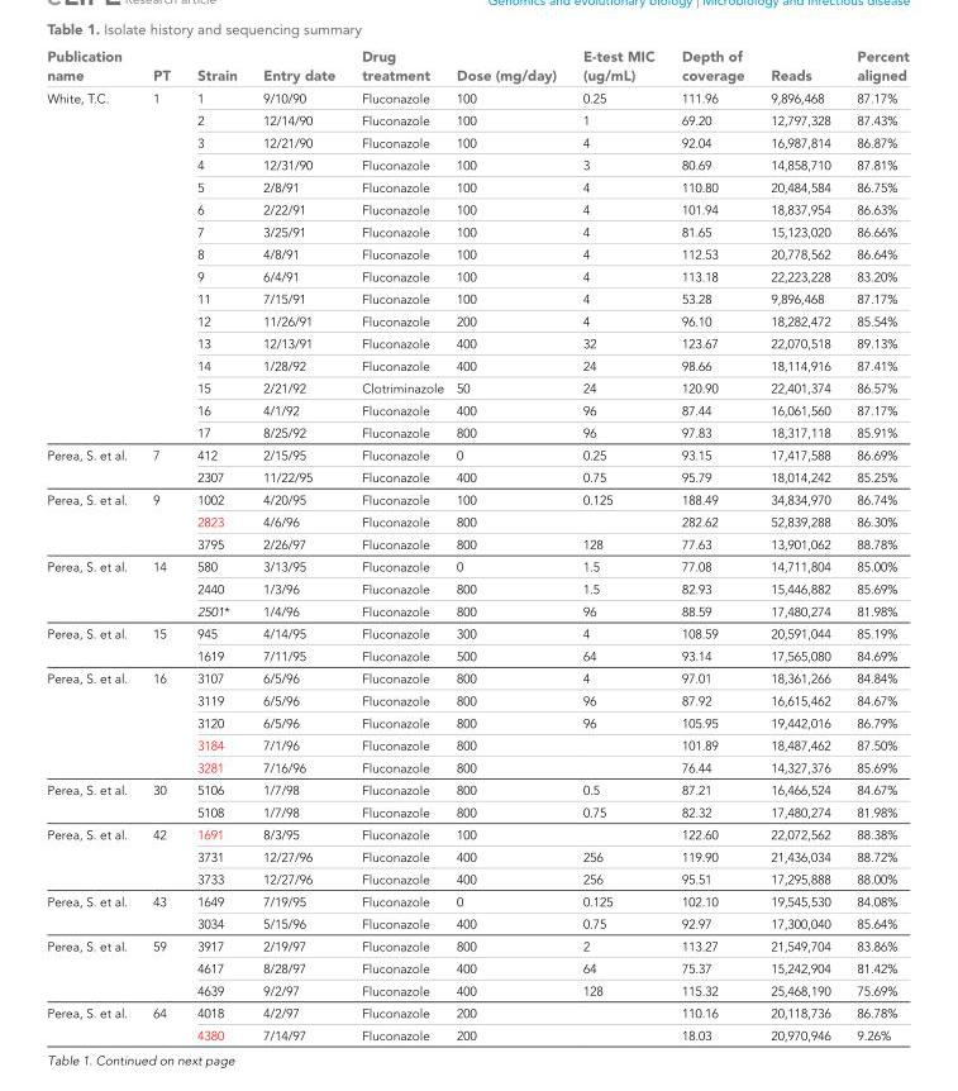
<table><thead><tr><td>Publication name</td><td>PT</td><td>Strain</td><td>Entry date</td><td>Drug treatment</td><td>Dose (mg/day)</td><td>E-test MIC (ug/mL)</td><td>Depth of coverage</td><td>Reads</td><td>Percent aligned</td></tr></thead><tbody><tr><td rowspan="16">White, T.C.</td><td>1</td><td>1</td><td>9/10/90</td><td>Fluconazole</td><td>100</td><td>0.25</td><td>111.96</td><td>9,896,468</td><td>87.17%</td></tr><tr><td></td><td>2</td><td>12/14/90</td><td>Fluconazole</td><td>100</td><td>1</td><td>69.20</td><td>12,797,328</td><td>87.43%</td></tr><tr><td></td><td>3</td><td>12/21/90</td><td>Fluconazole</td><td>100</td><td>4</td><td>92.04</td><td>16,987,814</td><td>86.87%</td></tr><tr><td></td><td>4</td><td>12/31/90</td><td>Fluconazole</td><td>100</td><td>3</td><td>80.69</td><td>14,858,710</td><td>87.81%</td></tr><tr><td></td><td>5</td><td>2/8/91</td><td>Fluconazole</td><td>100</td><td>4</td><td>110.80</td><td>20,484,584</td><td>86.75%</td></tr><tr><td></td><td>6</td><td>2/22/91</td><td>Fluconazole</td><td>100</td><td>4</td><td>101.94</td><td>18,837,954</td><td>86.63%</td></tr><tr><td></td><td>7</td><td>3/25/91</td><td>Fluconazole</td><td>100</td><td>4</td><td>81.65</td><td>15,123,020</td><td>86.66%</td></tr><tr><td></td><td>8</td><td>4/8/91</td><td>Fluconazole</td><td>100</td><td>4</td><td>112.53</td><td>20,778,562</td><td>86.64%</td></tr><tr><td></td><td>9</td><td>6/4/91</td><td>Fluconazole</td><td>100</td><td>4</td><td>113.18</td><td>22,223,228</td><td>83.20%</td></tr><tr><td></td><td>11</td><td>7/15/91</td><td>Fluconazole</td><td>100</td><td>4</td><td>53.28</td><td>9,896,468</td><td>87.17%</td></tr><tr><td></td><td>12</td><td>11/26/91</td><td>Fluconazole</td><td>200</td><td>4</td><td>96.10</td><td>18,282,472</td><td>85.54%</td></tr><tr><td></td><td>13</td><td>12/13/91</td><td>Fluconazole</td><td>400</td><td>32</td><td>123.67</td><td>22,070,518</td><td>89.13%</td></tr><tr><td></td><td>14</td><td>1/28/92</td><td>Fluconazole</td><td>400</td><td>24</td><td>98.66</td><td>18,114,916</td><td>87.41%</td></tr><tr><td></td><td>15</td><td>2/21/92</td><td>Clotriminazole</td><td>50</td><td>24</td><td>120.90</td><td>22,401,374</td><td>86.57%</td></tr><tr><td></td><td>16</td><td>4/1/92</td><td>Fluconazole</td><td>400</td><td>96</td><td>87.44</td><td>16,061,560</td><td>87.17%</td></tr><tr><td></td><td>17</td><td>8/25/92</td><td>Fluconazole</td><td>800</td><td>96</td><td>97.83</td><td>18,317,118</td><td>85.91%</td></tr><tr><td rowspan="2">Perea, S. et al.</td><td>7</td><td>412</td><td>2/15/95</td><td>Fluconazole</td><td>0</td><td>0.25</td><td>93.15</td><td>17,417,588</td><td>86.69%</td></tr><tr><td></td><td>2307</td><td>11/22/95</td><td>Fluconazole</td><td>400</td><td>0.75</td><td>95.79</td><td>18,014,242</td><td>85.25%</td></tr><tr><td rowspan="3">Perea, S. et al.</td><td>9</td><td>1002</td><td>4/20/95</td><td>Fluconazole</td><td>100</td><td>0.125</td><td>188.49</td><td>34,834,970</td><td>86.74%</td></tr><tr><td></td><td>2823</td><td>4/6/96</td><td>Fluconazole</td><td>800</td><td></td><td>282.62</td><td>52,839,288</td><td>86.30%</td></tr><tr><td></td><td>3795</td><td>2/26/97</td><td>Fluconazole</td><td>800</td><td>128</td><td>77.63</td><td>13,901,062</td><td>88.78%</td></tr><tr><td rowspan="3">Perea, S. et al.</td><td>14</td><td>580</td><td>3/13/95</td><td>Fluconazole</td><td>0</td><td>1.5</td><td>77.08</td><td>14,711,804</td><td>85.00%</td></tr><tr><td></td><td>2440</td><td>1/3/96</td><td>Fluconazole</td><td>800</td><td>1.5</td><td>82.93</td><td>15,446,882</td><td>85.69%</td></tr><tr><td></td><td>2501*</td><td>1/4/96</td><td>Fluconazole</td><td>800</td><td>96</td><td>88.59</td><td>17,480,274</td><td>81.98%</td></tr><tr><td rowspan="2">Perea, S. et al.</td><td>15</td><td>945</td><td>4/14/95</td><td>Fluconazole</td><td>300</td><td>4</td><td>108.59</td><td>20,591,044</td><td>85.19%</td></tr><tr><td></td><td>1619</td><td>7/11/95</td><td>Fluconazole</td><td>500</td><td>64</td><td>93.14</td><td>17,565,080</td><td>84.69%</td></tr><tr><td rowspan="5">Perea, S. et al.</td><td>16</td><td>3107</td><td>6/5/96</td><td>Fluconazole</td><td>800</td><td>4</td><td>97.01</td><td>18,361,266</td><td>84.84%</td></tr><tr><td></td><td>3119</td><td>6/5/96</td><td>Fluconazole</td><td>800</td><td>96</td><td>87.92</td><td>16,615,462</td><td>84.67%</td></tr><tr><td></td><td>3120</td><td>6/5/96</td><td>Fluconazole</td><td>800</td><td>96</td><td>105.95</td><td>19,442,016</td><td>86.79%</td></tr><tr><td></td><td>3184</td><td>7/1/96</td><td>Fluconazole</td><td>800</td><td></td><td>101.89</td><td>18,487,462</td><td>87.50%</td></tr><tr><td></td><td>3281</td><td>7/16/96</td><td>Fluconazole</td><td>800</td><td></td><td>76.44</td><td>14,327,376</td><td>85.69%</td></tr><tr><td rowspan="2">Perea, S. et al.</td><td>30</td><td>5106</td><td>1/7/98</td><td>Fluconazole</td><td>800</td><td>0.5</td><td>87.21</td><td>16,466,524</td><td>84.67%</td></tr><tr><td></td><td>5108</td><td>1/7/98</td><td>Fluconazole</td><td>800</td><td>0.75</td><td>82.32</td><td>17,480,274</td><td>81.98%</td></tr><tr><td rowspan="3">Perea, S. et al.</td><td>42</td><td>1691</td><td>8/3/95</td><td>Fluconazole</td><td>100</td><td></td><td>122.60</td><td>22,072,562</td><td>88.38%</td></tr><tr><td></td><td>3731</td><td>12/27/96</td><td>Fluconazole</td><td>400</td><td>256</td><td>119.90</td><td>21,436,034</td><td>88.72%</td></tr><tr><td></td><td>3733</td><td>12/27/96</td><td>Fluconazole</td><td>400</td><td>256</td><td>95.51</td><td>17,295,888</td><td>88.00%</td></tr><tr><td rowspan="2">Perea, S. et al.</td><td>43</td><td>1649</td><td>7/19/95</td><td>Fluconazole</td><td>0</td><td>0.125</td><td>102.10</td><td>19,545,530</td><td>84.08%</td></tr><tr><td></td><td>3034</td><td>5/15/96</td><td>Fluconazole</td><td>400</td><td>0.75</td><td>92.97</td><td>17,300,040</td><td>85.64%</td></tr><tr><td rowspan="3">Perea, S. et al.</td><td>59</td><td>3917</td><td>2/19/97</td><td>Fluconazole</td><td>800</td><td>2</td><td>113.27</td><td>21,549,704</td><td>83.86%</td></tr><tr><td></td><td>4617</td><td>8/28/97</td><td>Fluconazole</td><td>400</td><td>64</td><td>75.37</td><td>15,242,904</td><td>81.42%</td></tr><tr><td></td><td>4639</td><td>9/2/97</td><td>Fluconazole</td><td>400</td><td>128</td><td>115.32</td><td>25,468,190</td><td>75.69%</td></tr><tr><td rowspan="2">Perea, S. et al.</td><td>64</td><td>4018</td><td>4/2/97</td><td>Fluconazole</td><td>200</td><td></td><td>110.16</td><td>20,118,736</td><td>86.78%</td></tr><tr><td></td><td>4380</td><td>7/14/97</td><td>Fluconazole</td><td>200</td><td></td><td>18.03</td><td>20,970,946</td><td>9.26%</td></tr></tbody></table>